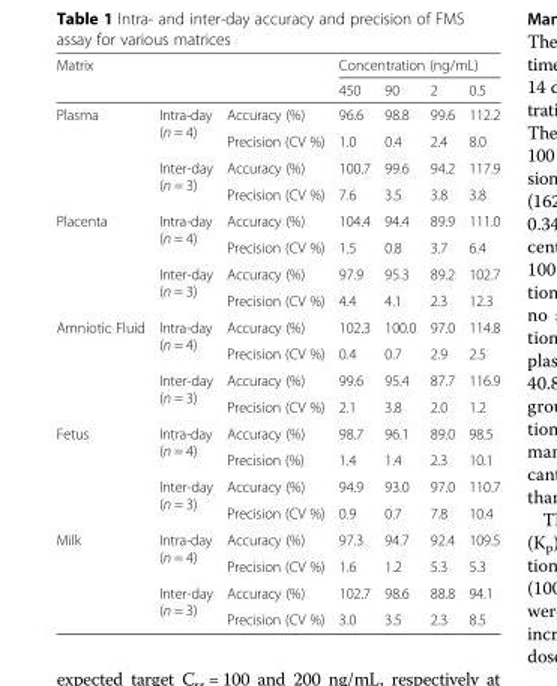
<table><thead><tr><td rowspan="2">Matrix</td><td rowspan="2"></td><td rowspan="2"></td><td colspan="4">Concentration (ng/mL)</td></tr><tr><td>450</td><td>90</td><td>2</td><td>0.5</td></tr></thead><tbody><tr><td rowspan="4">Plasma</td><td rowspan="2">Intra-day (n = 4)</td><td>Accuracy (%)</td><td>96.6</td><td>98.8</td><td>99.6</td><td>112.2</td></tr><tr><td>Precision (CV %)</td><td>1.0</td><td>0.4</td><td>2.4</td><td>8.0</td></tr><tr><td rowspan="2">Inter-day (n = 3)</td><td>Accuracy (%)</td><td>100.7</td><td>99.6</td><td>94.2</td><td>117.9</td></tr><tr><td>Precision (CV %)</td><td>7.6</td><td>3.5</td><td>3.8</td><td>3.8</td></tr><tr><td rowspan="4">Placenta</td><td rowspan="2">Intra-day (n = 4)</td><td>Accuracy (%)</td><td>104.4</td><td>94.4</td><td>89.9</td><td>111.0</td></tr><tr><td>Precision (CV %)</td><td>1.5</td><td>0.8</td><td>3.7</td><td>6.4</td></tr><tr><td rowspan="2">Inter-day (n = 3)</td><td>Accuracy (%)</td><td>97.9</td><td>95.3</td><td>89.2</td><td>102.7</td></tr><tr><td>Precision (CV %)</td><td>4.4</td><td>4.1</td><td>2.3</td><td>12.3</td></tr><tr><td rowspan="4">Amniotic Fluid</td><td rowspan="2">Intra-day (n = 4)</td><td>Accuracy (%)</td><td>102.3</td><td>100.0</td><td>97.0</td><td>114.8</td></tr><tr><td>Precision (CV %)</td><td>0.4</td><td>0.7</td><td>2.9</td><td>2.5</td></tr><tr><td rowspan="2">Inter-day (n = 3)</td><td>Accuracy (%)</td><td>99.6</td><td>95.4</td><td>87.7</td><td>116.9</td></tr><tr><td>Precision (CV %)</td><td>2.1</td><td>3.8</td><td>2.0</td><td>1.2</td></tr><tr><td rowspan="4">Fetus</td><td rowspan="2">Intra-day (n = 4)</td><td>Accuracy (%)</td><td>98.7</td><td>96.1</td><td>89.0</td><td>98.5</td></tr><tr><td>Precision (%)</td><td>1.4</td><td>1.4</td><td>2.3</td><td>10.1</td></tr><tr><td rowspan="2">Inter-day (n = 3)</td><td>Accuracy (%)</td><td>94.9</td><td>93.0</td><td>97.0</td><td>110.7</td></tr><tr><td>Precision (CV %)</td><td>0.9</td><td>0.7</td><td>7.8</td><td>10.4</td></tr><tr><td rowspan="4">Milk</td><td rowspan="2">Intra-day (n = 4)</td><td>Accuracy (%)</td><td>97.3</td><td>94.7</td><td>92.4</td><td>109.5</td></tr><tr><td>Precision (CV %)</td><td>1.6</td><td>1.2</td><td>5.3</td><td>5.3</td></tr><tr><td rowspan="2">Inter-day (n = 3)</td><td>Accuracy (%)</td><td>102.7</td><td>98.6</td><td>88.8</td><td>94.1</td></tr><tr><td>Precision (CV %)</td><td>3.0</td><td>3.5</td><td>2.3</td><td>8.5</td></tr></tbody></table>